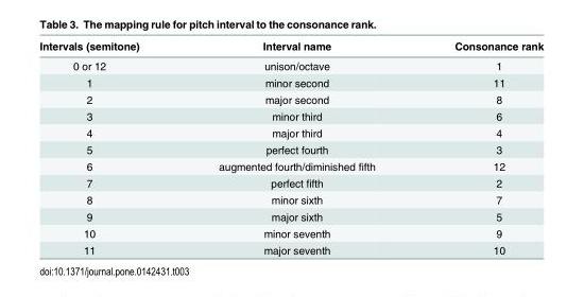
<table><thead><tr><td>Intervals (semitone)</td><td>Interval name</td><td>Consonance rank</td></tr></thead><tbody><tr><td>0 or 12</td><td>unison/octave</td><td>1</td></tr><tr><td>1</td><td>minor second</td><td>11</td></tr><tr><td>2</td><td>major second</td><td>8</td></tr><tr><td>3</td><td>minor third</td><td>6</td></tr><tr><td>4</td><td>major third</td><td>4</td></tr><tr><td>5</td><td>perfect fourth</td><td>3</td></tr><tr><td>6</td><td>augmented fourth/diminished fifth</td><td>12</td></tr><tr><td>7</td><td>perfect fifth</td><td>2</td></tr><tr><td>8</td><td>minor sixth</td><td>7</td></tr><tr><td>9</td><td>major sixth</td><td>5</td></tr><tr><td>10</td><td>minor seventh</td><td>9</td></tr><tr><td>11</td><td>major seventh</td><td>10</td></tr></tbody></table>